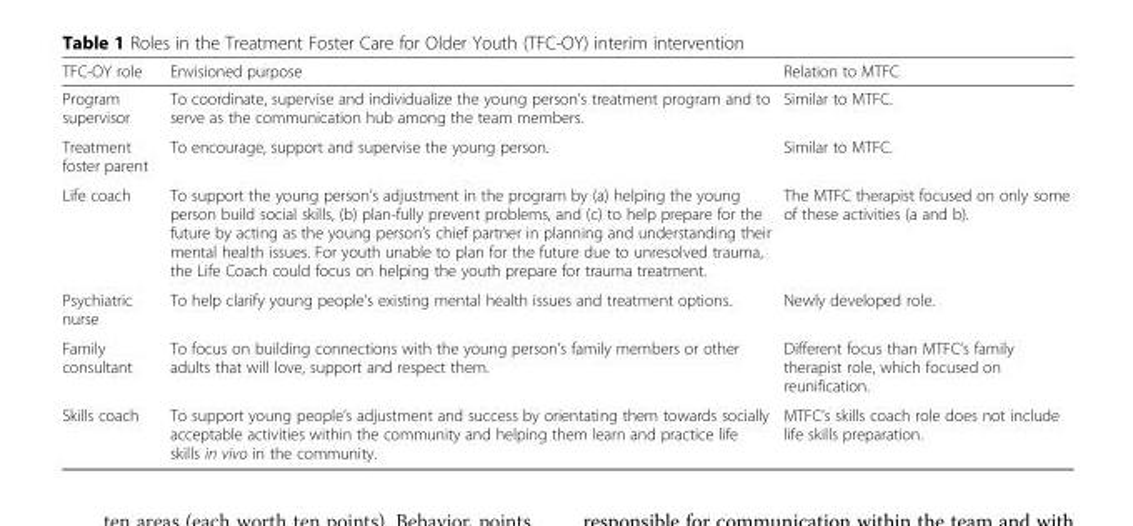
<table><thead><tr><td>TFC-OY role</td><td>Envisioned purpose</td><td>Relation to MTFC</td></tr></thead><tbody><tr><td>Program supervisor</td><td>To coordinate, supervise and individualize the young person’s treatment program and to serve as the communication hub among the team members.</td><td>Similar to MTFC.</td></tr><tr><td>Treatment foster parent</td><td>To encourage, support and supervise the young person.</td><td>Similar to MTFC.</td></tr><tr><td>Life coach</td><td>To support the young person’s adjustment in the program by (a) helping the young person build social skills, (b) plan-fully prevent problems, and (c) to help prepare for the future by acting as the young person’s chief partner in planning and understanding their mental health issues. For youth unable to plan for the future due to unresolved trauma, the Life Coach could focus on helping the youth prepare for trauma treatment.</td><td>The MTFC therapist focused on only some of these activities (a and b).</td></tr><tr><td>Psychiatric nurse</td><td>To help clarify young people’s existing mental health issues and treatment options.</td><td>Newly developed role.</td></tr><tr><td>Family consultant</td><td>To focus on building connections with the young person’s family members or other adults that will love, support and respect them.</td><td>Different focus than MTFC’s family therapist role, which focused on reunification.</td></tr><tr><td>Skills coach</td><td>To support young people’s adjustment and success by orientating them towards socially acceptable activities within the community and helping them learn and practice life skills in vivo in the community.</td><td>MTFC’s skills coach role does not include life skills preparation.</td></tr></tbody></table>